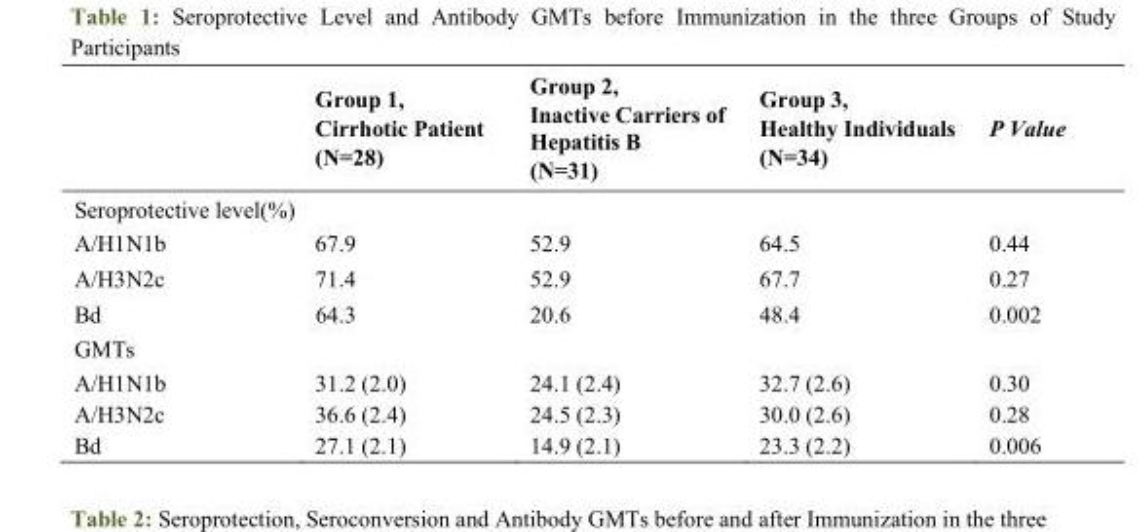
<table><thead><tr><td></td><td>Group 1, Cirrhotic Patient (N=28)</td><td>Group 2, Inactive Carriers of Hepatitis B (N=31)</td><td>Group 3, Healthy Individuals (N=34)</td><td>P Value</td></tr></thead><tbody><tr><td colspan="5">Seroprotective level(%)</td></tr><tr><td>A/H1N1b</td><td>67.9</td><td>52.9</td><td>64.5</td><td>0.44</td></tr><tr><td>A/H3N2c</td><td>71.4</td><td>52.9</td><td>67.7</td><td>0.27</td></tr><tr><td>Bd</td><td>64.3</td><td>20.6</td><td>48.4</td><td>0.002</td></tr><tr><td colspan="5">GMTs</td></tr><tr><td>A/H1N1b</td><td>31.2 (2.0)</td><td>24.1 (2.4)</td><td>32.7 (2.6)</td><td>0.30</td></tr><tr><td>A/H3N2c</td><td>36.6 (2.4)</td><td>24.5 (2.3)</td><td>30.0 (2.6)</td><td>0.28</td></tr><tr><td>Bd</td><td>27.1 (2.1)</td><td>14.9 (2.1)</td><td>23.3 (2.2)</td><td>0.006</td></tr></tbody></table>